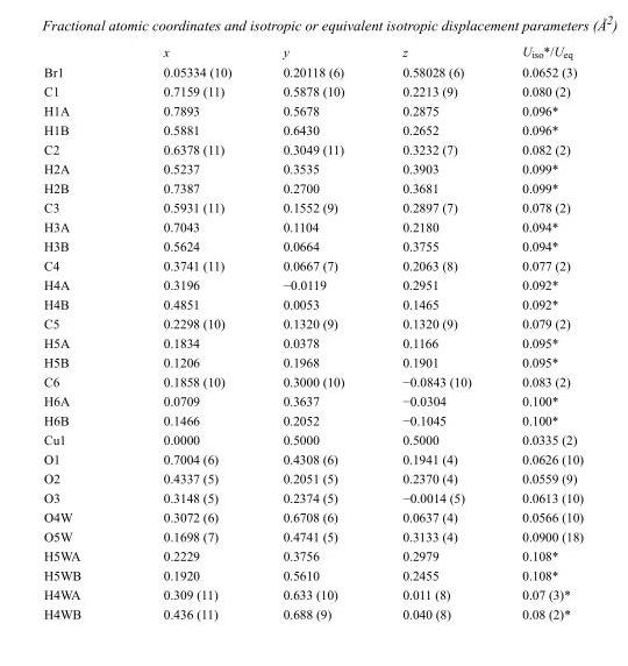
<table><thead><tr><td></td><td>x</td><td>y</td><td>z</td><td>U<sub>iso</sub>*/U<sub>eq</sub></td></tr></thead><tbody><tr><td>Br1</td><td>0.05334 (10)</td><td>0.20118 (6)</td><td>0.58028 (6)</td><td>0.0652 (3)</td></tr><tr><td>C1</td><td>0.7159 (11)</td><td>0.5878 (10)</td><td>0.2213 (9)</td><td>0.080 (2)</td></tr><tr><td>H1A</td><td>0.7893</td><td>0.5678</td><td>0.2875</td><td>0.096*</td></tr><tr><td>H1B</td><td>0.5881</td><td>0.6430</td><td>0.2652</td><td>0.096*</td></tr><tr><td>C2</td><td>0.6378 (11)</td><td>0.3049 (11)</td><td>0.3232 (7)</td><td>0.082 (2)</td></tr><tr><td>H2A</td><td>0.5237</td><td>0.3535</td><td>0.3903</td><td>0.099*</td></tr><tr><td>H2B</td><td>0.7387</td><td>0.2700</td><td>0.3681</td><td>0.099*</td></tr><tr><td>C3</td><td>0.5931 (11)</td><td>0.1552 (9)</td><td>0.2897 (7)</td><td>0.078 (2)</td></tr><tr><td>H3A</td><td>0.7043</td><td>0.1104</td><td>0.2180</td><td>0.094*</td></tr><tr><td>H3B</td><td>0.5624</td><td>0.0664</td><td>0.3755</td><td>0.094*</td></tr><tr><td>C4</td><td>0.3741 (11)</td><td>0.0667 (7)</td><td>0.2063 (8)</td><td>0.077 (2)</td></tr><tr><td>H4A</td><td>0.3196</td><td>−0.0119</td><td>0.2951</td><td>0.092*</td></tr><tr><td>H4B</td><td>0.4851</td><td>0.0053</td><td>0.1465</td><td>0.092*</td></tr><tr><td>C5</td><td>0.2298 (10)</td><td>0.1320 (9)</td><td>0.1320 (9)</td><td>0.079 (2)</td></tr><tr><td>H5A</td><td>0.1834</td><td>0.0378</td><td>0.1166</td><td>0.095*</td></tr><tr><td>H5B</td><td>0.1206</td><td>0.1968</td><td>0.1901</td><td>0.095*</td></tr><tr><td>C6</td><td>0.1858 (10)</td><td>0.3000 (10)</td><td>−0.0843 (10)</td><td>0.083 (2)</td></tr><tr><td>H6A</td><td>0.0709</td><td>0.3637</td><td>−0.0304</td><td>0.100*</td></tr><tr><td>H6B</td><td>0.1466</td><td>0.2052</td><td>−0.1045</td><td>0.100*</td></tr><tr><td>Cu1</td><td>0.0000</td><td>0.5000</td><td>0.5000</td><td>0.0335 (2)</td></tr><tr><td>O1</td><td>0.7004 (6)</td><td>0.4308 (6)</td><td>0.1941 (4)</td><td>0.0626 (10)</td></tr><tr><td>O2</td><td>0.4337 (5)</td><td>0.2051 (5)</td><td>0.2370 (4)</td><td>0.0559 (9)</td></tr><tr><td>O3</td><td>0.3148 (5)</td><td>0.2374 (5)</td><td>−0.0014 (5)</td><td>0.0613 (10)</td></tr><tr><td>O4W</td><td>0.3072 (6)</td><td>0.6708 (6)</td><td>0.0637 (4)</td><td>0.0566 (10)</td></tr><tr><td>O5W</td><td>0.1698 (7)</td><td>0.4741 (5)</td><td>0.3133 (4)</td><td>0.0900 (18)</td></tr><tr><td>H5WA</td><td>0.2229</td><td>0.3756</td><td>0.2979</td><td>0.108*</td></tr><tr><td>H5WB</td><td>0.1920</td><td>0.5610</td><td>0.2455</td><td>0.108*</td></tr><tr><td>H4WA</td><td>0.309 (11)</td><td>0.633 (10)</td><td>0.011 (8)</td><td>0.07 (3)*</td></tr><tr><td>H4WB</td><td>0.436 (11)</td><td>0.688 (9)</td><td>0.040 (8)</td><td>0.08 (2)*</td></tr></tbody></table>